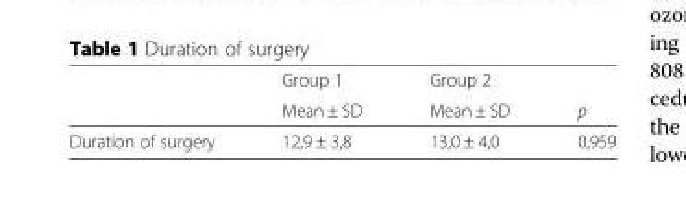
<table><thead><tr><td rowspan="2"></td><td rowspan="2">Group 1 Mean ± SD</td><td rowspan="2">Group 2 Mean ± SD</td><td rowspan="2">p</td></tr><tr></tr></thead><tbody><tr><td>Duration of surgery</td><td>12,9 ± 3,8</td><td>13,0 ± 4,0</td><td>0,959</td></tr></tbody></table>